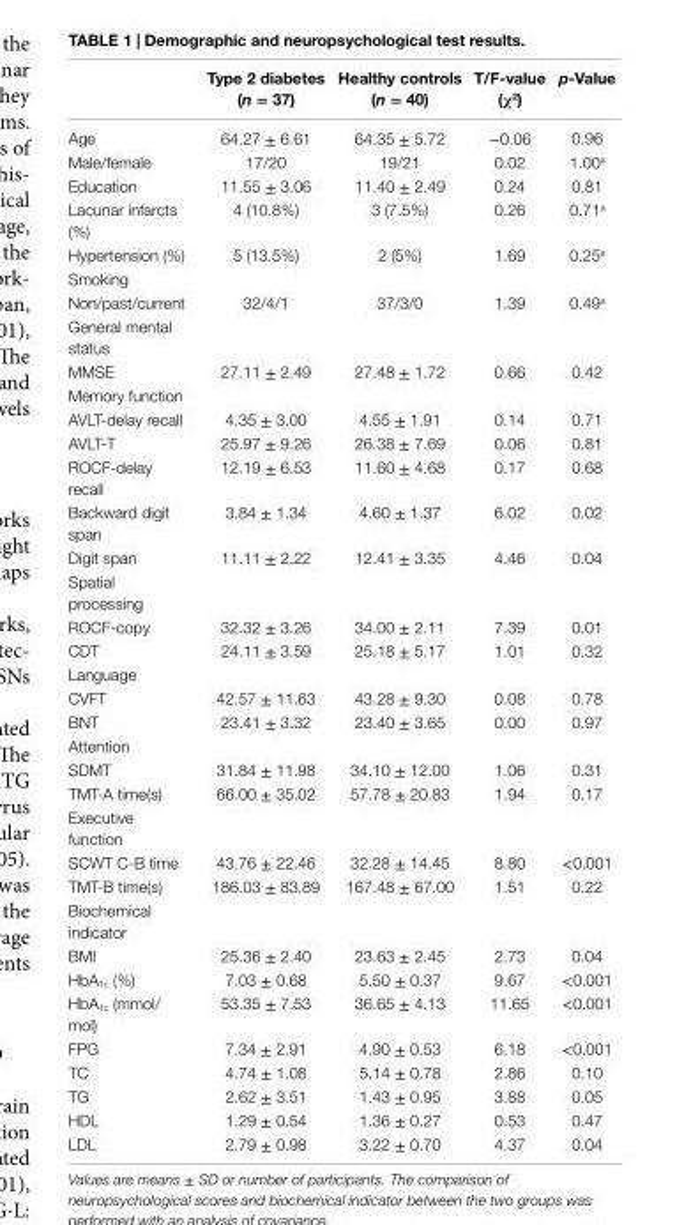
<table><thead><tr><td></td><td>Type 2 diabetes (n = 37)</td><td>healthy controls (n = 40)</td><td>T/F-value (χ<sup>2</sup>)</td><td>p-Value</td></tr></thead><tbody><tr><td>Age</td><td>64.27 ± 6.61</td><td>64.35 ± 5.72</td><td>−0.06</td><td>0.96</td></tr><tr><td>Male/female</td><td>17/20</td><td>19/21</td><td>0.02</td><td>1.00<sup>a</sup></td></tr><tr><td>Education</td><td>11.55 ± 3.06</td><td>11.40 ± 2.49</td><td>0.24</td><td>0.81</td></tr><tr><td>Lacunar infarcts (%)</td><td>4 (10.8%)</td><td>3 (7.5%)</td><td>0.26</td><td>0.71<sup>a</sup></td></tr><tr><td>Hypertension (%)</td><td>5 (13.5%)</td><td>2 (5%)</td><td>1.69</td><td>0.25<sup>a</sup></td></tr><tr><td colspan="5">Smoking</td></tr><tr><td>Non/past/current</td><td>32/4/1</td><td>37/3/0</td><td>1.39</td><td>0.49<sup>a</sup></td></tr><tr><td colspan="5">General mental status</td></tr><tr><td>MMSE</td><td>27.11 ± 2.49</td><td>27.48 ± 1.72</td><td>0.66</td><td>0.42</td></tr><tr><td colspan="5">Memory function</td></tr><tr><td>AVLT-delay recall</td><td>4.35 ± 3.00</td><td>4.55 ± 1.91</td><td>0.14</td><td>0.71</td></tr><tr><td>AVLT-T</td><td>25.97 ± 9.26</td><td>26.38 ± 7.69</td><td>0.06</td><td>0.81</td></tr><tr><td>ROCF-delay recall</td><td>12.19 ± 6.53</td><td>11.60 ± 4.68</td><td>0.17</td><td>0.68</td></tr><tr><td>Backward digit span</td><td>3.84 ± 1.34</td><td>4.60 ± 1.37</td><td>6.02</td><td>0.02</td></tr><tr><td>Digit span</td><td>11.11 ± 2.22</td><td>12.41 ± 3.35</td><td>4.46</td><td>0.04</td></tr><tr><td colspan="5">Spatial processing</td></tr><tr><td>ROCF-copy</td><td>32.32 ± 3.26</td><td>34.00 ± 2.11</td><td>7.39</td><td>0.01</td></tr><tr><td>CDT</td><td>24.11 ± 3.59</td><td>25.18 ± 5.17</td><td>1.01</td><td>0.32</td></tr><tr><td colspan="5">Language</td></tr><tr><td>CVFT</td><td>42.57 ± 11.63</td><td>43.28 ± 9.30</td><td>0.08</td><td>0.78</td></tr><tr><td>BNT</td><td>23.41 ± 3.32</td><td>23.40 ± 3.65</td><td>0.00</td><td>0.97</td></tr><tr><td colspan="5">Attention</td></tr><tr><td>SDMT</td><td>31.84 ± 11.98</td><td>34.10 ± 12.00</td><td>1.06</td><td>0.31</td></tr><tr><td>TMT-A time(s)</td><td>66.00 ± 35.02</td><td>57.78 ± 20.83</td><td>1.94</td><td>0.17</td></tr><tr><td colspan="5">Executive function</td></tr><tr><td>SCWT C-B time</td><td>43.76 ± 22.46</td><td>32.28 ± 14.45</td><td>8.80</td><td>&lt;0.001</td></tr><tr><td>TMT-B time(s)</td><td>186.03 ± 83.89</td><td>167.48 ± 67.00</td><td>1.51</td><td>0.22</td></tr><tr><td colspan="5">Biochemical indicator</td></tr><tr><td>BMI</td><td>25.36 ± 2.40</td><td>23.63 ± 2.45</td><td>2.73</td><td>0.04</td></tr><tr><td>HbA<sub>1c</sub> (%)</td><td>7.03 ± 0.68</td><td>5.50 ± 0.37</td><td>9.67</td><td>&lt;0.001</td></tr><tr><td>HbA<sub>1c</sub> (mmol/ mol)</td><td>53.35 ± 7.53</td><td>36.65 ± 4.13</td><td>11.65</td><td>&lt;0.001</td></tr><tr><td>FPG</td><td>7.34 ± 2.91</td><td>4.90 ± 0.53</td><td>6.18</td><td>&lt;0.001</td></tr><tr><td>TC</td><td>4.74 ± 1.08</td><td>5.14 ± 0.78</td><td>2.86</td><td>0.10</td></tr><tr><td>TG</td><td>2.62 ± 3.51</td><td>1.43 ± 0.95</td><td>3.88</td><td>0.05</td></tr><tr><td>HDL</td><td>1.29 ± 0.54</td><td>1.36 ± 0.27</td><td>0.53</td><td>0.47</td></tr><tr><td>LDL</td><td>2.79 ± 0.98</td><td>3.22 ± 0.70</td><td>4.37</td><td>0.04</td></tr></tbody></table>